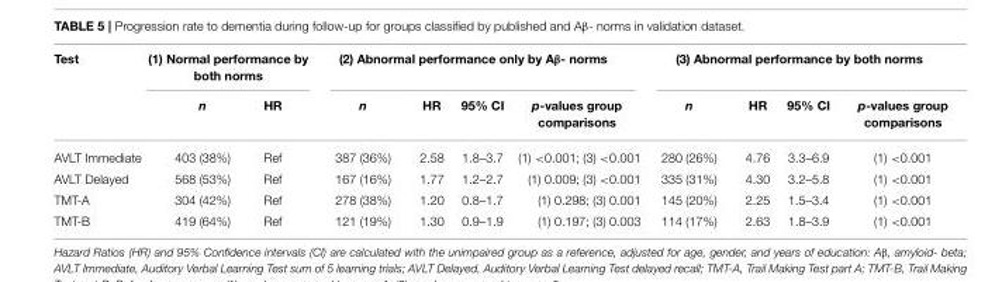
<table><thead><tr><td rowspan="2">Test</td><td colspan="2">(1) Normal performance by both norms</td><td colspan="4">(2) Abnormal performance only by Aβ- norms</td><td colspan="4">(3) Abnormal performance by both norms</td></tr><tr><td>n</td><td>HR</td><td>n</td><td>HR</td><td>95% CI</td><td>p-values group comparisons</td><td>n</td><td>HR</td><td>95% CI</td><td>p-values group comparisons</td></tr></thead><tbody><tr><td>AVLT Immediate</td><td>403 (38%)</td><td>Ref</td><td>387 (36%)</td><td>2.58</td><td>1.8–3.7</td><td>(1) &lt;0.001; (3) &lt;0.001</td><td>280 (26%)</td><td>4.76</td><td>3.3–6.9</td><td>(1) &lt;0.001</td></tr><tr><td>AVLT Delayed</td><td>568 (53%)</td><td>Ref</td><td>167 (16%)</td><td>1.77</td><td>1.2–2.7</td><td>(1) 0.009; (3) &lt;0.001</td><td>335 (31%)</td><td>4.30</td><td>3.2–5.8</td><td>(1) &lt;0.001</td></tr><tr><td>TMT-A</td><td>304 (42%)</td><td>Ref</td><td>278 (38%)</td><td>1.20</td><td>0.8–1.7</td><td>(1) 0.298; (3) 0.001</td><td>145 (20%)</td><td>2.25</td><td>1.5–3.4</td><td>(1) &lt;0.001</td></tr><tr><td>TMT-B</td><td>419 (64%)</td><td>Ref</td><td>121 (19%)</td><td>1.30</td><td>0.9–1.9</td><td>(1) 0.197; (3) 0.003</td><td>114 (17%)</td><td>2.63</td><td>1.8–3.9</td><td>(1) &lt;0.001</td></tr></tbody></table>